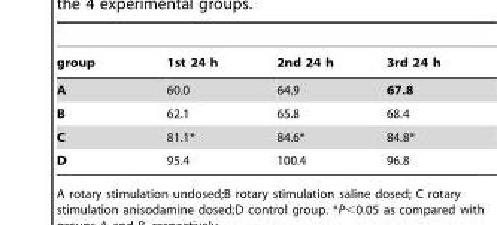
<table><thead><tr><td>group</td><td>1st 24 h</td><td>2nd 24 h</td><td>3rd 24 h</td></tr></thead><tbody><tr><td>A</td><td>60.0</td><td>64.9</td><td>67.8</td></tr><tr><td>B</td><td>62.1</td><td>65.8</td><td>68.4</td></tr><tr><td>C</td><td>81.1*</td><td>84.6*</td><td>84.8*</td></tr><tr><td>D</td><td>95.4</td><td>100.4</td><td>96.8</td></tr></tbody></table>